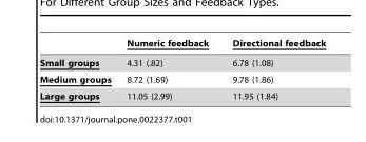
<table><thead><tr><td></td><td>Numeric feedback</td><td>Directional feedback</td></tr></thead><tbody><tr><td>Small groups</td><td>4.31 (.82)</td><td>6.78 (1.08)</td></tr><tr><td>Medium groups</td><td>8.72 (1.69)</td><td>9.78 (1.86)</td></tr><tr><td>Large groups</td><td>11.05 (2.99)</td><td>11.95 (1.84)</td></tr></tbody></table>